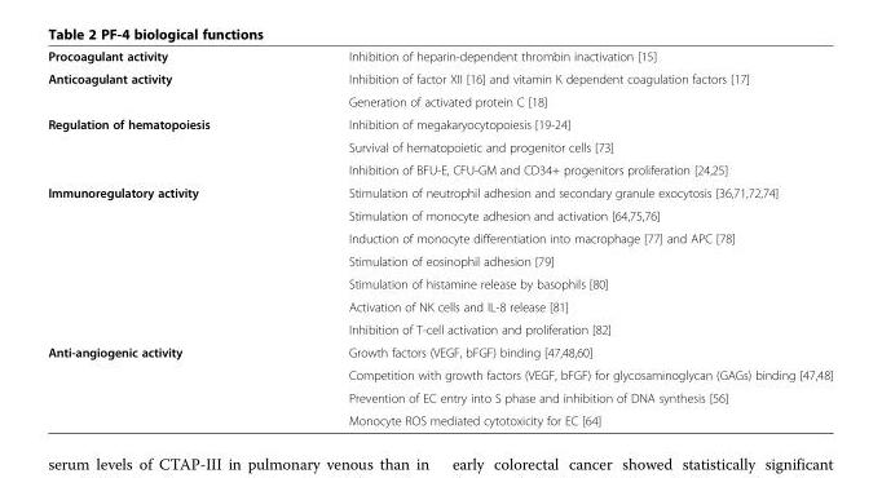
<table><tbody><tr><td>Procoagulant activity</td><td>Inhibition of heparin-dependent thrombin inactivation [15]</td></tr><tr><td rowspan="2">Anticoagulant activity</td><td>Inhibition of factor XII [16] and vitamin K dependent coagulation factors [17]</td></tr><tr><td>Generation of activated protein C [18]</td></tr><tr><td rowspan="3">Regulation of hematopoiesis</td><td>Inhibition of megakaryocytopoiesis [19-24]</td></tr><tr><td>Survival of hematopoietic and progenitor cells [73]</td></tr><tr><td>Inhibition of BFU-E, CFU-GM and CD34+ progenitors proliferation [24,25]</td></tr><tr><td rowspan="7">Immunoregulatory activity</td><td>Stimulation of neutrophil adhesion and secondary granule exocytosis [36,71,72,74]</td></tr><tr><td>Stimulation of monocyte adhesion and activation [64,75,76]</td></tr><tr><td>Induction of monocyte differentiation into macrophage [77] and APC [78]</td></tr><tr><td>Stimulation of eosinophil adhesion [79]</td></tr><tr><td>Stimulation of histamine release by basophils [80]</td></tr><tr><td>Activation of NK cells and IL-8 release [81]</td></tr><tr><td>Inhibition of T-cell activation and proliferation [82]</td></tr><tr><td rowspan="4">Anti-angiogenic activity</td><td>Growth factors (VEGF, bFGF) binding [47,48,60]</td></tr><tr><td>Competition with growth factors (VEGF, bFGF) for glycosaminoglycan (GAGs) binding [47,48]</td></tr><tr><td>Prevention of EC entry into S phase and inhibition of DNA synthesis [56]</td></tr><tr><td>Monocyte ROS mediated cytotoxicity for EC [64]</td></tr></tbody></table>